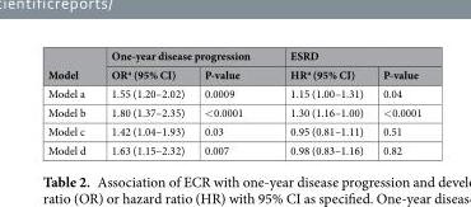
<table><thead><tr><td rowspan="2">Model</td><td colspan="2">One-year disease progression</td><td colspan="2">ESRD</td></tr><tr><td>OR<sup>a</sup> (95% CI)</td><td>P-value</td><td>HR<sup>a</sup> (95% CI)</td><td>P-value</td></tr></thead><tbody><tr><td>Model a</td><td>1.55 (1.20–2.02)</td><td>0.0009</td><td>1.15 (1.00–1.31)</td><td>0.04</td></tr><tr><td>Model b</td><td>1.80 (1.37–2.35)</td><td>&lt;0.0001</td><td>1.30 (1.16–1.00)</td><td>&lt;0.0001</td></tr><tr><td>Model c</td><td>1.42 (1.04–1.93)</td><td>0.03</td><td>0.95 (0.81–1.11)</td><td>0.51</td></tr><tr><td>Model d</td><td>1.63 (1.15–2.32)</td><td>0.007</td><td>0.98 (0.83–1.16)</td><td>0.82</td></tr></tbody></table>